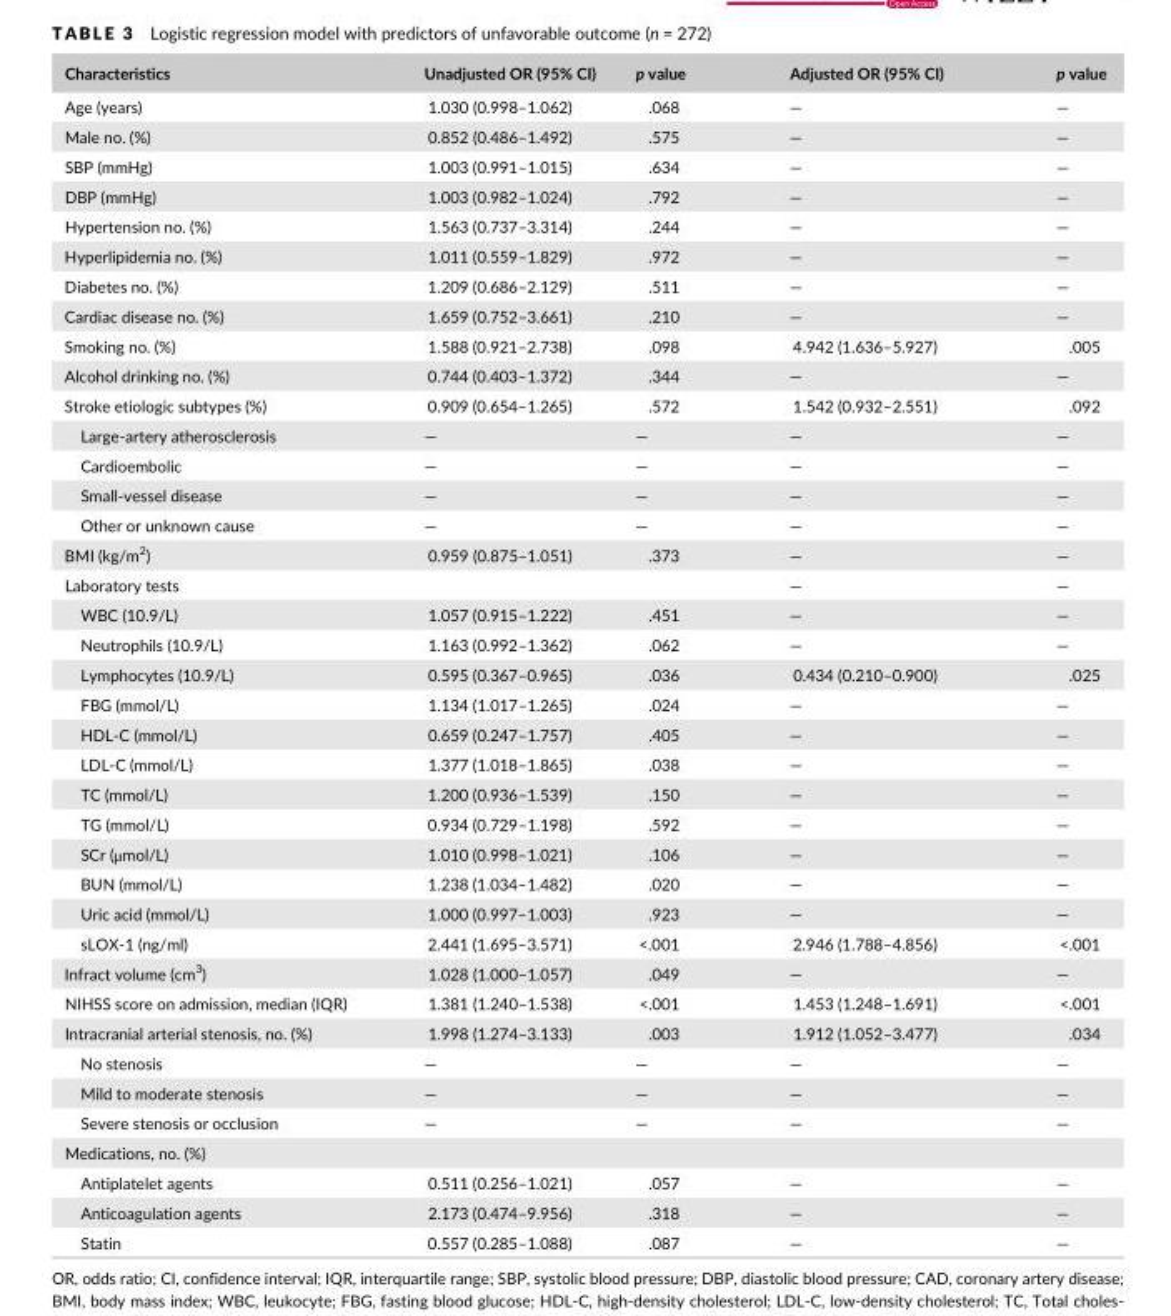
<table><thead><tr><td>Characteristics</td><td>Unadjusted OR (95% CI)</td><td>p value</td><td>Adjusted OR (95% CI)</td><td>p value</td></tr></thead><tbody><tr><td>Age (years)</td><td>1.030 (0.998–1.062)</td><td>.068</td><td>—</td><td>—</td></tr><tr><td>Male no. (%)</td><td>0.852 (0.486–1.492)</td><td>.575</td><td>—</td><td>—</td></tr><tr><td>SBP (mmHg)</td><td>1.003 (0.991–1.015)</td><td>.634</td><td>—</td><td>—</td></tr><tr><td>DBP (mmHg)</td><td>1.003 (0.982–1.024)</td><td>.792</td><td>—</td><td>—</td></tr><tr><td>Hypertension no. (%)</td><td>1.563 (0.737–3.314)</td><td>.244</td><td>—</td><td>—</td></tr><tr><td>Hyperlipidemia no. (%)</td><td>1.011 (0.559–1.829)</td><td>.972</td><td>—</td><td>—</td></tr><tr><td>Diabetes no. (%)</td><td>1.209 (0.686–2.129)</td><td>.511</td><td>—</td><td>—</td></tr><tr><td>Cardiac disease no. (%)</td><td>1.659 (0.752–3.661)</td><td>.210</td><td>—</td><td>—</td></tr><tr><td>Smoking no. (%)</td><td>1.588 (0.921–2.738)</td><td>.098</td><td>4.942 (1.636–5.927)</td><td>.005</td></tr><tr><td>Alcohol drinking no. (%)</td><td>0.744 (0.403–1.372)</td><td>.344</td><td>—</td><td>—</td></tr><tr><td>Stroke etiologic subtypes (%)</td><td>0.909 (0.654–1.265)</td><td>.572</td><td>1.542 (0.932–2.551)</td><td>.092</td></tr><tr><td>Large- artery atherosclerosis</td><td>—</td><td>—</td><td>—</td><td>—</td></tr><tr><td>Cardioembolic</td><td>—</td><td>—</td><td>—</td><td>—</td></tr><tr><td>Small- vessel disease</td><td>—</td><td>—</td><td>—</td><td>—</td></tr><tr><td>Other or unknown cause</td><td>—</td><td>—</td><td>—</td><td>—</td></tr><tr><td>BMI (kg/m<sup>2</sup>)</td><td>0.959 (0.875–1.051)</td><td>.373</td><td>—</td><td>—</td></tr><tr><td>Laboratory tests</td><td></td><td></td><td>—</td><td>—</td></tr><tr><td>WBC (10.9/L)</td><td>1.057 (0.915–1.222)</td><td>.451</td><td>—</td><td>—</td></tr><tr><td>Neutrophils (10.9/L)</td><td>1.163 (0.992–1.362)</td><td>.062</td><td>—</td><td>—</td></tr><tr><td>Lymphocytes (10.9/L)</td><td>0.595 (0.367–0.965)</td><td>.036</td><td>0.434 (0.210–0.900)</td><td>.025</td></tr><tr><td>FBG (mmol/L)</td><td>1.134 (1.017–1.265)</td><td>.024</td><td>—</td><td>—</td></tr><tr><td>HDL- C (mmol/L)</td><td>0.659 (0.247–1.757)</td><td>.405</td><td>—</td><td>—</td></tr><tr><td>LDL- C (mmol/L)</td><td>1.377 (1.018–1.865)</td><td>.038</td><td>—</td><td>—</td></tr><tr><td>TC (mmol/L)</td><td>1.200 (0.936–1.539)</td><td>.150</td><td>—</td><td>—</td></tr><tr><td>TG (mmol/L)</td><td>0.934 (0.729–1.198)</td><td>.592</td><td>—</td><td>—</td></tr><tr><td>SCr (μmol/L)</td><td>1.010 (0.998–1.021)</td><td>.106</td><td>—</td><td>—</td></tr><tr><td>BUN (mmol/L)</td><td>1.238 (1.034–1.482)</td><td>.020</td><td>—</td><td>—</td></tr><tr><td>Uric acid (mmol/L)</td><td>1.000 (0.997–1.003)</td><td>.923</td><td>—</td><td>—</td></tr><tr><td>sLOX- 1 (ng/ml)</td><td>2.441 (1.695–3.571)</td><td>&lt;.001</td><td>2.946 (1.788–4.856)</td><td>&lt;.001</td></tr><tr><td>Infract volume (cm<sup>3</sup>)</td><td>1.028 (1.000–1.057)</td><td>.049</td><td>—</td><td>—</td></tr><tr><td>NIHSS score on admission, median (IQR)</td><td>1.381 (1.240–1.538)</td><td>&lt;.001</td><td>1.453 (1.248–1.691)</td><td>&lt;.001</td></tr><tr><td>Intracranial arterial stenosis, no. (%)</td><td>1.998 (1.274–3.133)</td><td>.003</td><td>1.912 (1.052–3.477)</td><td>.034</td></tr><tr><td>No stenosis</td><td>—</td><td>—</td><td>—</td><td>—</td></tr><tr><td>Mild to moderate stenosis</td><td>—</td><td>—</td><td>—</td><td>—</td></tr><tr><td>Severe stenosis or occlusion</td><td>—</td><td>—</td><td>—</td><td>—</td></tr><tr><td colspan="5">Medications, no. (%)</td></tr><tr><td>Antiplatelet agents</td><td>0.511 (0.256–1.021)</td><td>.057</td><td>—</td><td>—</td></tr><tr><td>Anticoagulation agents</td><td>2.173 (0.474–9.956)</td><td>.318</td><td>—</td><td>—</td></tr><tr><td>Statin</td><td>0.557 (0.285–1.088)</td><td>.087</td><td>—</td><td>—</td></tr></tbody></table>